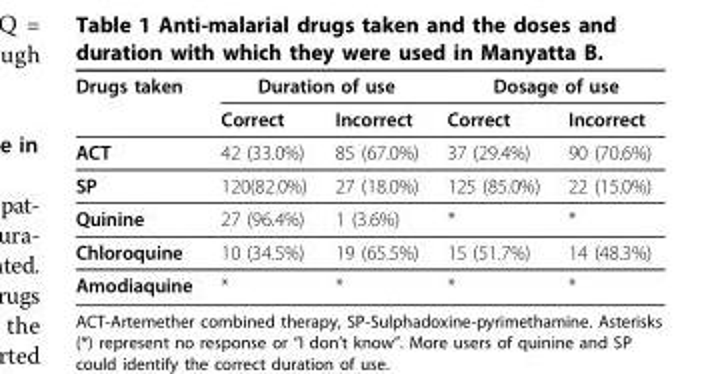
<table><thead><tr><td rowspan="2">Drugs taken</td><td colspan="2">Duration of use</td><td colspan="2">Dosage of use</td></tr><tr><td>Correct</td><td>Incorrect</td><td>Correct</td><td>Incorrect</td></tr></thead><tbody><tr><td>ACT</td><td>42 (33.0%)</td><td>85 (67.0%)</td><td>37 (29.4%)</td><td>90 (70.6%)</td></tr><tr><td>SP</td><td>120(82.0%)</td><td>27 (18.0%)</td><td>125 (85.0%)</td><td>22 (15.0%)</td></tr><tr><td>Quinine</td><td>27 (96.4%)</td><td>1 (3.6%)</td><td>*</td><td>*</td></tr><tr><td>Chloroquine</td><td>10 (34.5%)</td><td>19 (65.5%)</td><td>15 (51.7%)</td><td>14 (48.3%)</td></tr><tr><td>Amodiaquine</td><td>*</td><td>*</td><td>*</td><td>*</td></tr></tbody></table>